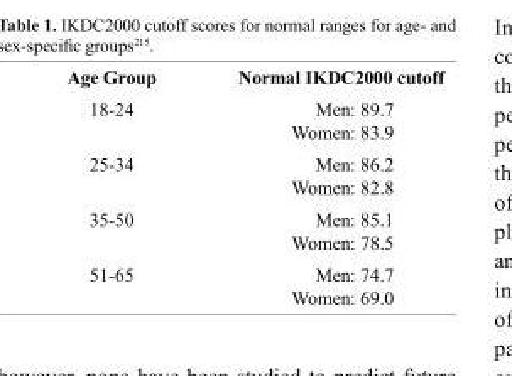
<table><thead><tr><td>Age Group</td><td>Normal IKDC2000 cutoff</td></tr></thead><tbody><tr><td>18-24</td><td>Men: 89.7 Women: 83.9</td></tr><tr><td>25-34</td><td>Men: 86.2 Women: 82.8</td></tr><tr><td>35-50</td><td>Men: 85.1 Women: 78.5</td></tr><tr><td>51-65</td><td>Men: 74.7 Women: 69.0</td></tr></tbody></table>